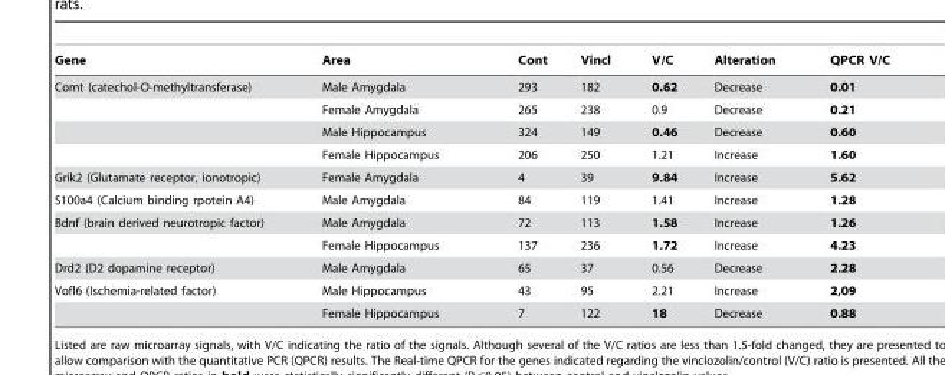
<table><thead><tr><td>Gene</td><td>Area</td><td>Cont</td><td>Vincl</td><td>V/C</td><td>Alteration</td><td>QPCR V/C</td></tr></thead><tbody><tr><td rowspan="4">Comt (catechol-O-methyltransferase)</td><td>Male Amygdala</td><td>293</td><td>182</td><td>0.62</td><td>Decrease</td><td>0.01</td></tr><tr><td>Female Amygdala</td><td>265</td><td>238</td><td>0.9</td><td>Decrease</td><td>0.21</td></tr><tr><td>Male Hippocampus</td><td>324</td><td>149</td><td>0.46</td><td>Decrease</td><td>0.60</td></tr><tr><td>Female Hippocampus</td><td>206</td><td>250</td><td>1.21</td><td>Increase</td><td>1.60</td></tr><tr><td>Grik2 (Glutamate receptor, ionotropic)</td><td>Female Amygdala</td><td>4</td><td>39</td><td>9.84</td><td>Increase</td><td>5.62</td></tr><tr><td>S100a4 (Calcium binding rpotein A4)</td><td>Male Amygdala</td><td>84</td><td>119</td><td>1.41</td><td>Increase</td><td>1.28</td></tr><tr><td rowspan="2">Bdnf (brain derived neurotropic factor)</td><td>Male Amygdala</td><td>72</td><td>113</td><td>1.58</td><td>Increase</td><td>1.26</td></tr><tr><td>Female Hippocampus</td><td>137</td><td>236</td><td>1.72</td><td>Increase</td><td>4.23</td></tr><tr><td>Drd2 (D2 dopamine receptor)</td><td>Male Amygdala</td><td>65</td><td>37</td><td>0.56</td><td>Decrease</td><td>2.28</td></tr><tr><td rowspan="2">Vofl6 (Ischemia-related factor)</td><td>Male Hippocampus</td><td>43</td><td>95</td><td>2.21</td><td>Increase</td><td>2,09</td></tr><tr><td>Female Hippocampus</td><td>7</td><td>122</td><td>18</td><td>Decrease</td><td>0.88</td></tr></tbody></table>